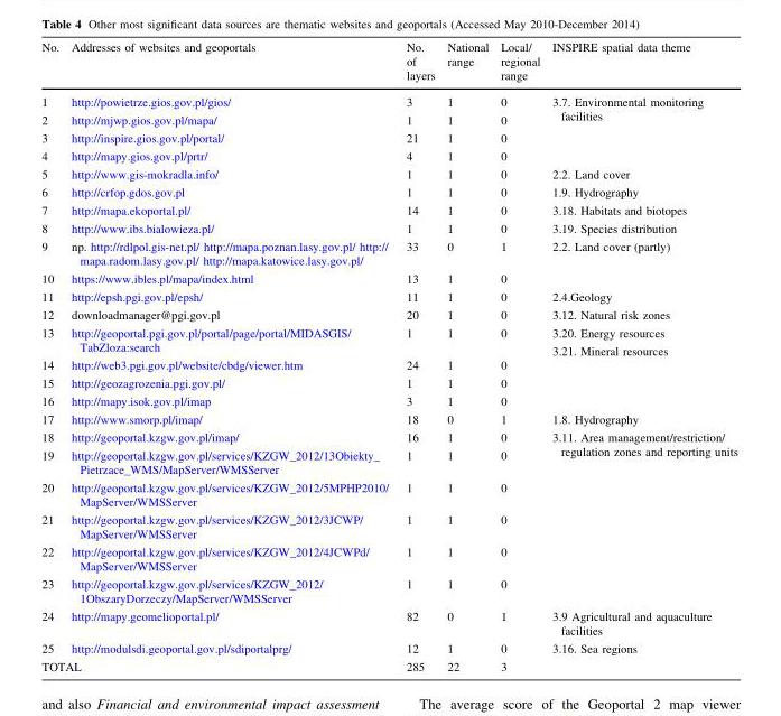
<table><thead><tr><td>No.</td><td>Addresses of websites and geoportals</td><td>No. of layers</td><td>National range</td><td>Local/ regional range</td><td>INSPIRE spatial data theme</td></tr></thead><tbody><tr><td>1</td><td>http://powietrze.gios.gov.pl/gios/</td><td>3</td><td>1</td><td>0</td><td rowspan="4">3.7. Environmental monitoring facilities</td></tr><tr><td>2</td><td>http://mjwp.gios.gov.pl/mapa/</td><td>1</td><td>1</td><td>0</td></tr><tr><td>3</td><td>http://inspire.gios.gov.pl/portal/</td><td>21</td><td>1</td><td>0</td></tr><tr><td>4</td><td>http://mapy.gios.gov.pl/prtr/</td><td>4</td><td>1</td><td>0</td></tr><tr><td>5</td><td>http://www.gis-mokradla.info/</td><td>1</td><td>1</td><td>0</td><td>2.2. Land cover</td></tr><tr><td>6</td><td>http://crfop.gdos.gov.pl</td><td>1</td><td>1</td><td>0</td><td rowspan="3">1.9. Hydrography 3.18. Habitats and biotopes 3.19. Species distribution</td></tr><tr><td>7</td><td>http://mapa.ekoportal.pl/</td><td>14</td><td>1</td><td>0</td></tr><tr><td>8</td><td>http://www.ibs.bialowieza.pl/</td><td>1</td><td>1</td><td>0</td></tr><tr><td>9</td><td>np. http://rdlpol.gis-net.pl/ http://mapa.poznan.lasy.gov.pl/ http:// mapa.radom.lasy.gov.pl/ http://mapa.katowice.lasy.gov.pl/</td><td>33</td><td>0</td><td>1</td><td rowspan="2">2.2. Land cover (partly)</td></tr><tr><td>10</td><td>https://www.ibles.pl/mapa/index.html</td><td>13</td><td>1</td><td>0</td></tr><tr><td>11</td><td>http://epsh.pgi.gov.pl/epsh/</td><td>11</td><td>1</td><td>0</td><td rowspan="6">2.4.Geology 3.12. Natural risk zones 3.20. Energy resources 3.21. Mineral resources</td></tr><tr><td>12</td><td>downloadmanager@pgi.gov.pl</td><td>20</td><td>1</td><td>0</td></tr><tr><td>13</td><td>http://geoportal.pgi.gov.pl/portal/page/portal/MIDASGIS/ TabZloza:search</td><td>1</td><td>1</td><td>0</td></tr><tr><td>14</td><td>http://web3.pgi.gov.pl/website/cbdg/viewer.htm</td><td>24</td><td>1</td><td>0</td></tr><tr><td>15</td><td>http://geozagrozenia.pgi.gov.pl/</td><td>1</td><td>1</td><td>0</td></tr><tr><td>16</td><td>http://mapy.isok.gov.pl/imap</td><td>3</td><td>1</td><td>0</td></tr><tr><td>17</td><td>http://www.smorp.pl/imap/</td><td>18</td><td>0</td><td>1</td><td rowspan="7">1.8. Hydrography 3.11. Area management/restriction/ regulation zones and reporting units</td></tr><tr><td>18</td><td>http://geoportal.kzgw.gov.pl/imap/</td><td>16</td><td>1</td><td>0</td></tr><tr><td>19</td><td>http://geoportal.kzgw.gov.pl/services/KZGW_2012/13Obiekty_ Pietrzace_WMS/MapServer/WMSServer</td><td>1</td><td>1</td><td>0</td></tr><tr><td>20</td><td>http://geoportal.kzgw.gov.pl/services/KZGW_2012/5MPHP2010/ MapServer/WMSServer</td><td>1</td><td>1</td><td>0</td></tr><tr><td>21</td><td>http://geoportal.kzgw.gov.pl/services/KZGW_2012/3JCWP/ MapServer/WMSServer</td><td>1</td><td>1</td><td>0</td></tr><tr><td>22</td><td>http://geoportal.kzgw.gov.pl/services/KZGW_2012/4JCWPd/ MapServer/WMSServer</td><td>1</td><td>1</td><td>0</td></tr><tr><td>23</td><td>http://geoportal.kzgw.gov.pl/services/KZGW_2012/ 1ObszaryDorzeczy/MapServer/WMSServer</td><td>1</td><td>1</td><td>0</td></tr><tr><td>24</td><td>http://mapy.geomelioportal.pl/</td><td>82</td><td>0</td><td>1</td><td>3.9 Agricultural and aquaculture facilities</td></tr><tr><td>25</td><td>http://modulsdi.geoportal.gov.pl/sdiportalprg/</td><td>12</td><td>1</td><td>0</td><td>3.16. Sea regions</td></tr><tr><td colspan="2">TOTAL</td><td>285</td><td>22</td><td>3</td><td></td></tr></tbody></table>